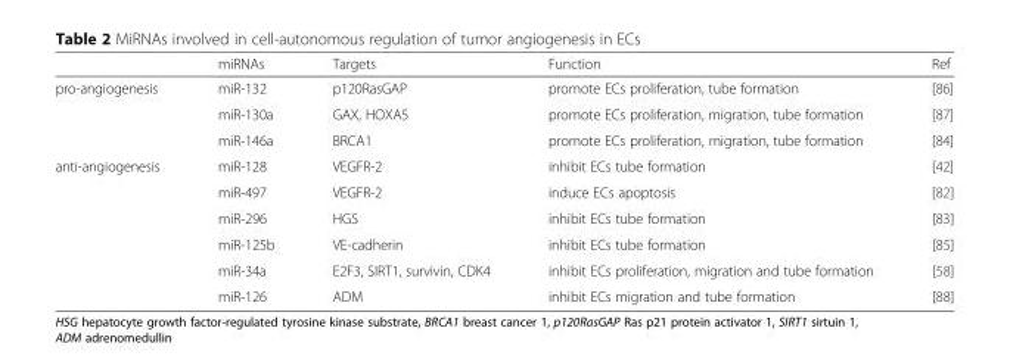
<table><thead><tr><td></td><td>miRNAs</td><td>Targets</td><td>Function</td><td>Ref</td></tr></thead><tbody><tr><td rowspan="3">pro-angiogenesis</td><td>miR-132</td><td>p120RasGAP</td><td>promote ECs proliferation, tube formation</td><td>[86]</td></tr><tr><td>miR-130a</td><td>GAX, HOXA5</td><td>promote ECs proliferation, migration, tube formation</td><td>[87]</td></tr><tr><td>miR-146a</td><td>BRCA1</td><td>promote ECs proliferation, migration, tube formation</td><td>[84]</td></tr><tr><td rowspan="6">anti-angiogenesis</td><td>miR-128</td><td>VEGFR-2</td><td>inhibit ECs tube formation</td><td>[42]</td></tr><tr><td>miR-497</td><td>VEGFR-2</td><td>induce ECs apoptosis</td><td>[82]</td></tr><tr><td>miR-296</td><td>HGS</td><td>inhibit ECs tube formation</td><td>[83]</td></tr><tr><td>miR-125b</td><td>VE-cadherin</td><td>inhibit ECs tube formation</td><td>[85]</td></tr><tr><td>miR-34a</td><td>E2F3, SIRT1, survivin, CDK4</td><td>inhibit ECs proliferation, migration and tube formation</td><td>[58]</td></tr><tr><td>miR-126</td><td>ADM</td><td>inhibit ECs migration and tube formation</td><td>[88]</td></tr></tbody></table>